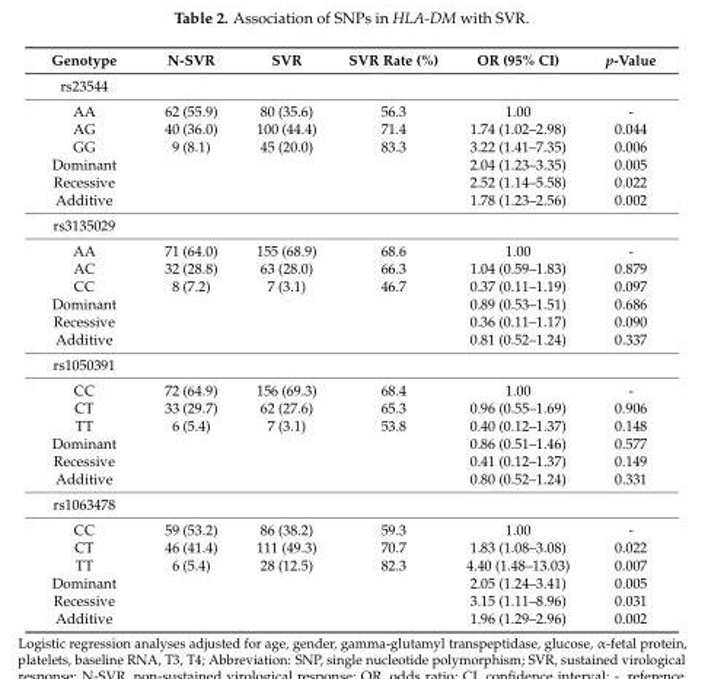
<table><thead><tr><td>Genotype</td><td>N-SVR</td><td>SVR</td><td>SVR Rate (%)</td><td>OR (95% CI)</td><td>p-Value</td></tr></thead><tbody><tr><td colspan="6">rs23544</td></tr><tr><td>AA</td><td>62 (55.9)</td><td>80 (35.6)</td><td>56.3</td><td>1.00</td><td>-</td></tr><tr><td>AG</td><td>40 (36.0)</td><td>100 (44.4)</td><td>71.4</td><td>1.74 (1.02–2.98)</td><td>0.044</td></tr><tr><td>GG</td><td>9 (8.1)</td><td>45 (20.0)</td><td>83.3</td><td>3.22 (1.41–7.35)</td><td>0.006</td></tr><tr><td>Dominant</td><td></td><td></td><td></td><td>2.04 (1.23–3.35)</td><td>0.005</td></tr><tr><td>Recessive</td><td></td><td></td><td></td><td>2.52 (1.14–5.58)</td><td>0.022</td></tr><tr><td>Additive</td><td></td><td></td><td></td><td>1.78 (1.23–2.56)</td><td>0.002</td></tr><tr><td colspan="6">rs3135029</td></tr><tr><td>AA</td><td>71 (64.0)</td><td>155 (68.9)</td><td>68.6</td><td>1.00</td><td>-</td></tr><tr><td>AC</td><td>32 (28.8)</td><td>63 (28.0)</td><td>66.3</td><td>1.04 (0.59–1.83)</td><td>0.879</td></tr><tr><td>CC</td><td>8 (7.2)</td><td>7 (3.1)</td><td>46.7</td><td>0.37 (0.11–1.19)</td><td>0.097</td></tr><tr><td>Dominant</td><td></td><td></td><td></td><td>0.89 (0.53–1.51)</td><td>0.686</td></tr><tr><td>Recessive</td><td></td><td></td><td></td><td>0.36 (0.11–1.17)</td><td>0.090</td></tr><tr><td>Additive</td><td></td><td></td><td></td><td>0.81 (0.52–1.24)</td><td>0.337</td></tr><tr><td colspan="6">rs1050391</td></tr><tr><td>CC</td><td>72 (64.9)</td><td>156 (69.3)</td><td>68.4</td><td>1.00</td><td>-</td></tr><tr><td>CT</td><td>33 (29.7)</td><td>62 (27.6)</td><td>65.3</td><td>0.96 (0.55–1.69)</td><td>0.906</td></tr><tr><td>TT</td><td>6 (5.4)</td><td>7 (3.1)</td><td>53.8</td><td>0.40 (0.12–1.37)</td><td>0.148</td></tr><tr><td>Dominant</td><td></td><td></td><td></td><td>0.86 (0.51–1.46)</td><td>0.577</td></tr><tr><td>Recessive</td><td></td><td></td><td></td><td>0.41 (0.12–1.37)</td><td>0.149</td></tr><tr><td>Additive</td><td></td><td></td><td></td><td>0.80 (0.52–1.24)</td><td>0.331</td></tr><tr><td colspan="6">rs1063478</td></tr><tr><td>CC</td><td>59 (53.2)</td><td>86 (38.2)</td><td>59.3</td><td>1.00</td><td>-</td></tr><tr><td>CT</td><td>46 (41.4)</td><td>111 (49.3)</td><td>70.7</td><td>1.83 (1.08–3.08)</td><td>0.022</td></tr><tr><td>TT</td><td>6 (5.4)</td><td>28 (12.5)</td><td>82.3</td><td>4.40 (1.48–13.03)</td><td>0.007</td></tr><tr><td>Dominant</td><td></td><td></td><td></td><td>2.05 (1.24–3.41)</td><td>0.005</td></tr><tr><td>Recessive</td><td></td><td></td><td></td><td>3.15 (1.11–8.96)</td><td>0.031</td></tr><tr><td>Additive</td><td></td><td></td><td></td><td>1.96 (1.29–2.96)</td><td>0.002</td></tr></tbody></table>